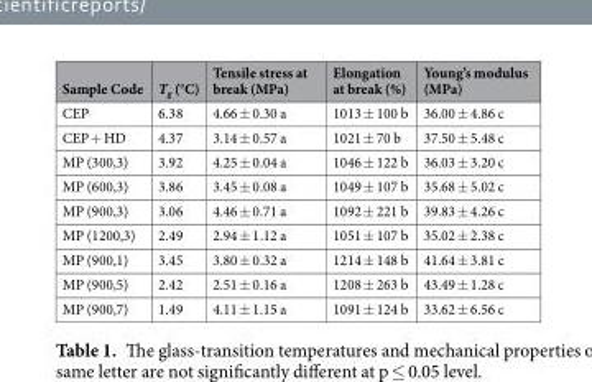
<table><thead><tr><td>Sample Code</td><td>T<sub>g</sub> (°C)</td><td>Tensile stress at break (MPa)</td><td>Elongation at break (%)</td><td>Young’s modulus (MPa)</td></tr></thead><tbody><tr><td>CEP</td><td>6.38</td><td>4.66 ± 0.30 a</td><td>1013 ± 100 b</td><td>36.00 ± 4.86 c</td></tr><tr><td>CEP + HD</td><td>4.37</td><td>3.14 ± 0.57 a</td><td>1021 ± 70 b</td><td>37.50 ± 5.48 c</td></tr><tr><td>MP (300,3)</td><td>3.92</td><td>4.25 ± 0.04 a</td><td>1046 ± 122 b</td><td>36.03 ± 3.20 c</td></tr><tr><td>MP (600,3)</td><td>3.86</td><td>3.45 ± 0.08 a</td><td>1049 ± 107 b</td><td>35.68 ± 5.02 c</td></tr><tr><td>MP (900,3)</td><td>3.06</td><td>4.46 ± 0.71 a</td><td>1092 ± 221 b</td><td>39.83 ± 4.26 c</td></tr><tr><td>MP (1200,3)</td><td>2.49</td><td>2.94 ± 1.12 a</td><td>1051 ± 107 b</td><td>35.02 ± 2.38 c</td></tr><tr><td>MP (900,1)</td><td>3.45</td><td>3.80 ± 0.32 a</td><td>1214 ± 148 b</td><td>41.64 ± 3.81 c</td></tr><tr><td>MP (900,5)</td><td>2.42</td><td>2.51 ± 0.16 a</td><td>1208 ± 263 b</td><td>43.49 ± 1.28 c</td></tr><tr><td>MP (900,7)</td><td>1.49</td><td>4.11 ± 1.15 a</td><td>1091 ± 124 b</td><td>33.62 ± 6.56 c</td></tr></tbody></table>